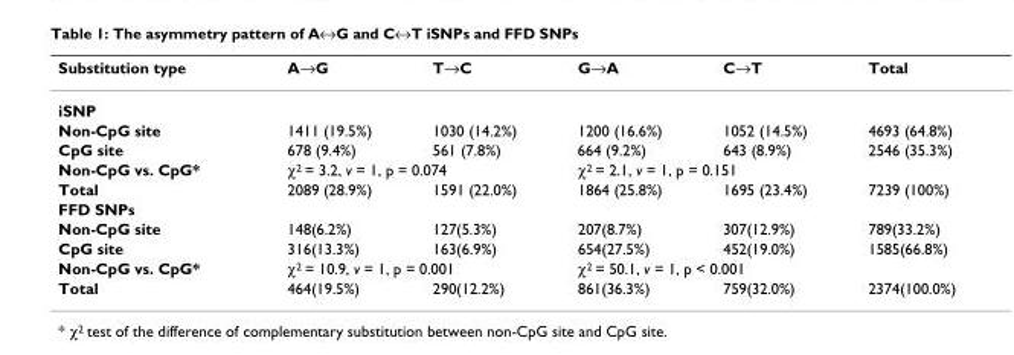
<table><thead><tr><td>Substitution type</td><td>A→G</td><td>T→C</td><td>G→A</td><td>C→T</td><td>Total</td></tr></thead><tbody><tr><td colspan="6">iSNP</td></tr><tr><td>Non-CpG site</td><td>1411 (19.5%)</td><td>1030 (14.2%)</td><td>1200 (16.6%)</td><td>1052 (14.5%)</td><td>4693 (64.8%)</td></tr><tr><td>CpG site</td><td>678 (9.4%)</td><td>561 (7.8%)</td><td>664 (9.2%)</td><td>643 (8.9%)</td><td>2546 (35.3%)</td></tr><tr><td>Non-CpG vs. CpG*</td><td colspan="2">χ2 = 3.2, v = 1, p = 0.074</td><td colspan="2">χ2 = 2.1, v = 1, p = 0.151</td><td></td></tr><tr><td>Total</td><td>2089 (28.9%)</td><td>1591 (22.0%)</td><td>1864 (25.8%)</td><td>1695 (23.4%)</td><td>7239 (100%)</td></tr><tr><td colspan="6">FFD SNPs</td></tr><tr><td>Non-CpG site</td><td>148(6.2%)</td><td>127(5.3%)</td><td>207(8.7%)</td><td>307(12.9%)</td><td>789(33.2%)</td></tr><tr><td>CpG site</td><td>316(13.3%)</td><td>163(6.9%)</td><td>654(27.5%)</td><td>452(19.0%)</td><td>1585(66.8%)</td></tr><tr><td>Non-CpG vs. CpG*</td><td colspan="2">χ2 = 10.9, v = 1, p = 0.001</td><td colspan="2">χ2 = 50.1, v = 1, p &lt; 0.001</td><td></td></tr><tr><td>Total</td><td>464(19.5%)</td><td>290(12.2%)</td><td>861(36.3%)</td><td>759(32.0%)</td><td>2374(100.0%)</td></tr></tbody></table>